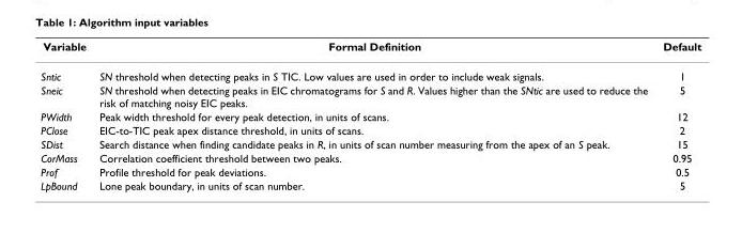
<table><thead><tr><td>Variable</td><td>Formal Definition</td><td>Default</td></tr></thead><tbody><tr><td>Sntic</td><td>SN threshold when detecting peaks in S TIC. Low values are used in order to include weak signals.</td><td>1</td></tr><tr><td>Sneic</td><td>SN threshold when detecting peaks in EIC chromatograms for S and R. Values higher than the SNtic are used to reduce the risk of matching noisy EIC peaks.</td><td>5</td></tr><tr><td>PWidth</td><td>Peak width threshold for every peak detection, in units of scans.</td><td>12</td></tr><tr><td>PClose</td><td>EIC-to-TIC peak apex distance threshold, in units of scans.</td><td>2</td></tr><tr><td>SDist</td><td>Search distance when finding candidate peaks in R, in units of scan number measuring from the apex of an S peak.</td><td>15</td></tr><tr><td>CorMass</td><td>Correlation coefficient threshold between two peaks.</td><td>0.95</td></tr><tr><td>Prof</td><td>Profile threshold for peak deviations.</td><td>0.5</td></tr><tr><td>LpBound</td><td>Lone peak boundary, in units of scan number.</td><td>5</td></tr></tbody></table>